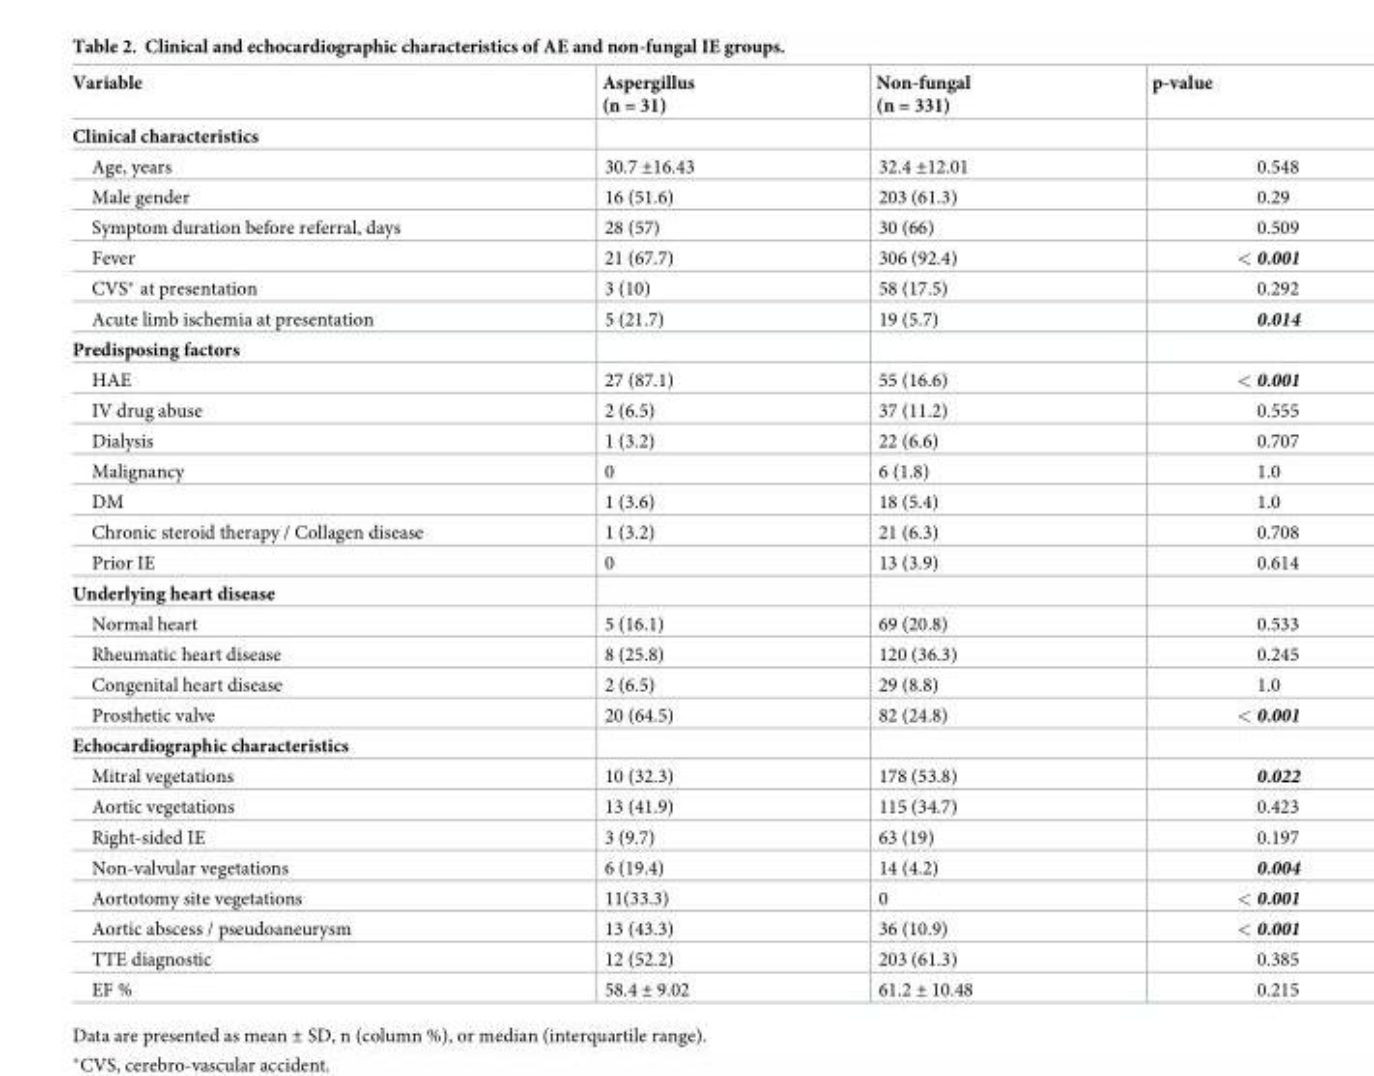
<table><thead><tr><td>Variable</td><td>Aspergillus (n = 31)</td><td>Non-fungal (n = 331)</td><td>p-value</td></tr></thead><tbody><tr><td colspan="4">Clinical characteristics</td></tr><tr><td>Age, years</td><td>30.7 ±16.43</td><td>32.4 ±12.01</td><td>0.548</td></tr><tr><td>Male gender</td><td>16 (51.6)</td><td>203 (61.3)</td><td>0.29</td></tr><tr><td>Symptom duration before referral, days</td><td>28 (57)</td><td>30 (66)</td><td>0.509</td></tr><tr><td>Fever</td><td>21 (67.7)</td><td>306 (92.4)</td><td>&lt; 0.001</td></tr><tr><td>CVS* at presentation</td><td>3 (10)</td><td>58 (17.5)</td><td>0.292</td></tr><tr><td>Acute limb ischemia at presentation</td><td>5 (21.7)</td><td>19 (5.7)</td><td>0.014</td></tr><tr><td colspan="4">Predisposing factors</td></tr><tr><td>HAE</td><td>27 (87.1)</td><td>55 (16.6)</td><td>&lt; 0.001</td></tr><tr><td>IV drug abuse</td><td>2 (6.5)</td><td>37 (11.2)</td><td>0.555</td></tr><tr><td>Dialysis</td><td>1 (3.2)</td><td>22 (6.6)</td><td>0.707</td></tr><tr><td>Malignancy</td><td>0</td><td>6 (1.8)</td><td>1.0</td></tr><tr><td>DM</td><td>1 (3.6)</td><td>18 (5.4)</td><td>1.0</td></tr><tr><td>Chronic steroid therapy / Collagen disease</td><td>1 (3.2)</td><td>21 (6.3)</td><td>0.708</td></tr><tr><td>Prior IE</td><td>0</td><td>13 (3.9)</td><td>0.614</td></tr><tr><td colspan="4">Underlying heart disease</td></tr><tr><td>Normal heart</td><td>5 (16.1)</td><td>69 (20.8)</td><td>0.533</td></tr><tr><td>Rheumatic heart disease</td><td>8 (25.8)</td><td>120 (36.3)</td><td>0.245</td></tr><tr><td>Congenital heart disease</td><td>2 (6.5)</td><td>29 (8.8)</td><td>1.0</td></tr><tr><td>Prosthetic valve</td><td>20 (64.5)</td><td>82 (24.8)</td><td>&lt; 0.001</td></tr><tr><td colspan="4">Echocardiographic characteristics</td></tr><tr><td>Mitral vegetations</td><td>10 (32.3)</td><td>178 (53.8)</td><td>0.022</td></tr><tr><td>Aortic vegetations</td><td>13 (41.9)</td><td>115 (34.7)</td><td>0.423</td></tr><tr><td>Right-sided IE</td><td>3 (9.7)</td><td>63 (19)</td><td>0.197</td></tr><tr><td>Non-valvular vegetations</td><td>6 (19.4)</td><td>14 (4.2)</td><td>0.004</td></tr><tr><td>Aortotomy site vegetations</td><td>11(33.3)</td><td>0</td><td>&lt; 0.001</td></tr><tr><td>Aortic abscess / pseudoaneurysm</td><td>13 (43.3)</td><td>36 (10.9)</td><td>&lt; 0.001</td></tr><tr><td>TTE diagnostic</td><td>12 (52.2)</td><td>203 (61.3)</td><td>0.385</td></tr><tr><td>EF %</td><td>58.4 ± 9.02</td><td>61.2 ± 10.48</td><td>0.215</td></tr></tbody></table>